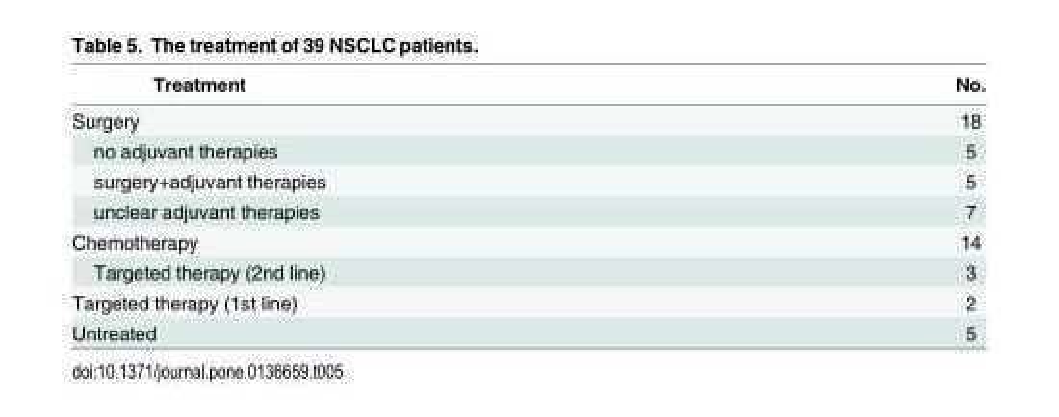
<table><thead><tr><td>Treatment</td><td>No.</td></tr></thead><tbody><tr><td>Surgery</td><td>18</td></tr><tr><td>no adjuvant therapies</td><td>5</td></tr><tr><td>surgery+adjuvant therapies</td><td>5</td></tr><tr><td>unclear adjuvant therapies</td><td>7</td></tr><tr><td>Chemotherapy</td><td>14</td></tr><tr><td>Targeted therapy (2nd line)</td><td>3</td></tr><tr><td>Targeted therapy (1st line)</td><td>2</td></tr><tr><td>Untreated</td><td>5</td></tr></tbody></table>